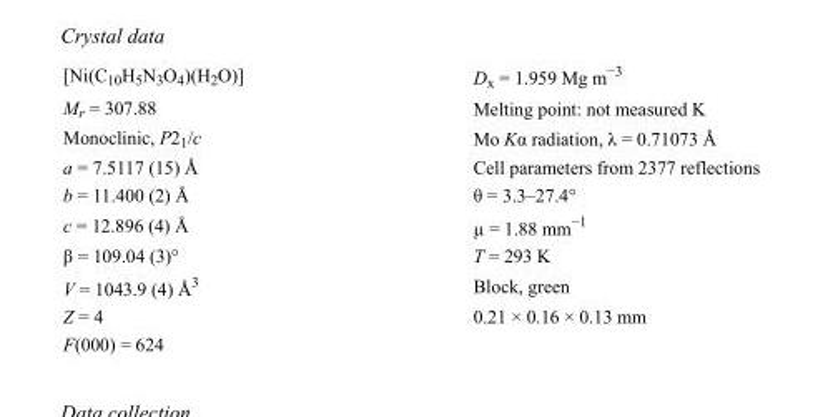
<table><tbody><tr><td>[Ni(C<sub>10</sub>H<sub>5</sub>N<sub>3</sub>O<sub>4</sub>)(H<sub>2</sub>O)]</td><td>D<sub>x</sub> = 1.959 Mg m<sup>−3</sup></td></tr><tr><td>M<sub>r</sub> = 307.88</td><td>Melting point: not measured K</td></tr><tr><td>Monoclinic, P2<sub>1</sub>/c</td><td>Mo Kα radiation, λ = 0.71073 Å</td></tr><tr><td>a = 7.5117 (15) Å</td><td>Cell parameters from 2377 reflections</td></tr><tr><td>b = 11.400 (2) Å</td><td>θ = 3.3–27.4°</td></tr><tr><td>c = 12.896 (4) Å</td><td>µ = 1.88 mm<sup>−1</sup></td></tr><tr><td>β = 109.04 (3)°</td><td>T = 293 K</td></tr><tr><td>V = 1043.9 (4) Å<sup>3</sup></td><td>Block, green</td></tr><tr><td>Z = 4</td><td>0.21 × 0.16 × 0.13 mm</td></tr><tr><td>F(000) = 624</td><td></td></tr></tbody></table>